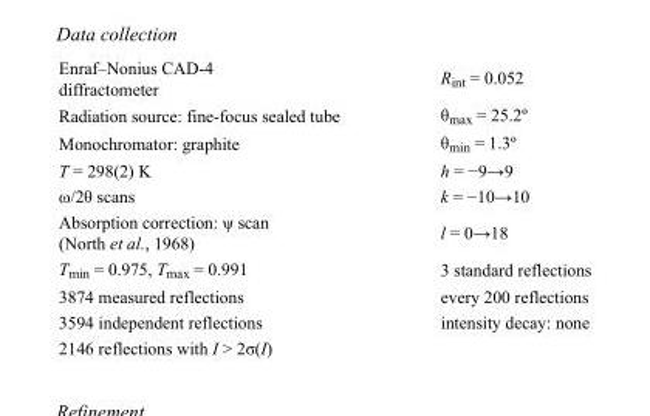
<table><tbody><tr><td>Enraf–Nonius CAD-4 diffractometer</td><td>R<sub>int</sub> = 0.052</td></tr><tr><td>Radiation source: fine-focus sealed tube</td><td>θ<sub>max</sub> = 25.2º</td></tr><tr><td>Monochromator: graphite</td><td>θ<sub>min</sub> = 1.3º</td></tr><tr><td>T = 298(2) K</td><td>h = −9→9</td></tr><tr><td>ω/2θ scans</td><td>k = −10→10</td></tr><tr><td>Absorption correction: ψ scan (North et al., 1968)</td><td>l = 0→18</td></tr><tr><td>T<sub>min</sub> = 0.975, T<sub>max</sub> = 0.991</td><td>3 standard reflections</td></tr><tr><td>3874 measured reflections</td><td>every 200 reflections</td></tr><tr><td>3594 independent reflections</td><td>intensity decay: none</td></tr><tr><td>2146 reflections with I &gt; 2σ(I)</td><td></td></tr></tbody></table>